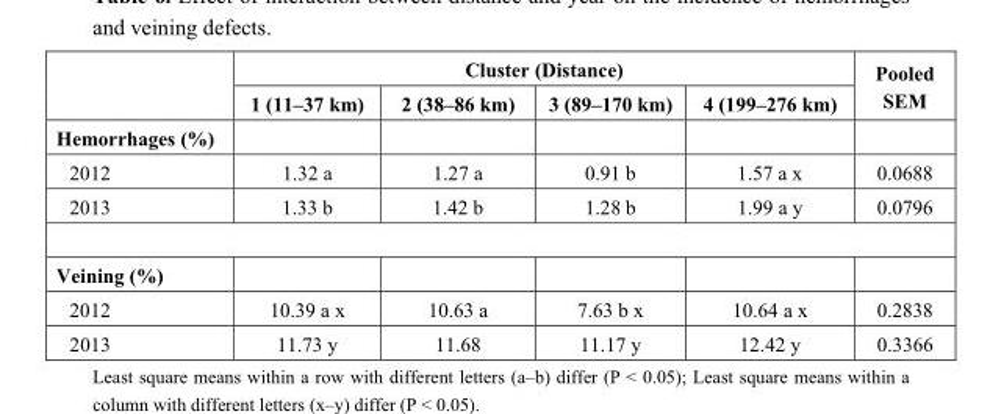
<table><thead><tr><td rowspan="2"></td><td colspan="4">Cluster (Distance)</td><td rowspan="2">Pooled SEM</td></tr><tr><td>1 (11–37 km)</td><td>2 (38–86 km)</td><td>3 (89–170 km)</td><td>4 (199–276 km)</td></tr></thead><tbody><tr><td colspan="6">Hemorrhages (%)</td></tr><tr><td>2012</td><td>1.32 a</td><td>1.27 a</td><td>0.91 b</td><td>1.57 a x</td><td>0.0688</td></tr><tr><td>2013</td><td>1.33 b</td><td>1.42 b</td><td>1.28 b</td><td>1.99 a y</td><td>0.0796</td></tr><tr><td colspan="6">Veining (%)</td></tr><tr><td>2012</td><td>10.39 a x</td><td>10.63 a</td><td>7.63 b x</td><td>10.64 a x</td><td>0.2838</td></tr><tr><td>2013</td><td>11.73 y</td><td>11.68</td><td>11.17 y</td><td>12.42 y</td><td>0.3366</td></tr></tbody></table>